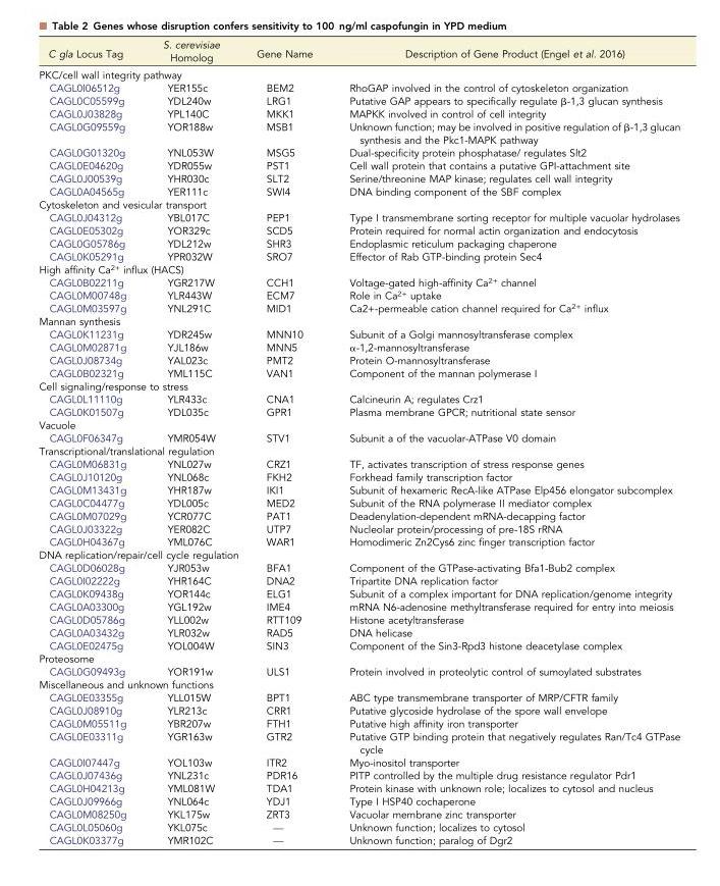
<table><thead><tr><td>C gla Locus Tag</td><td>S. cerevisiae Homolog</td><td>Gene Name</td><td>Description of Gene Product (Engel et al. 2016)</td></tr></thead><tbody><tr><td colspan="4">PKC/cell wall integrity pathway</td></tr><tr><td>CAGL0I06512g</td><td>YER155c</td><td>BEM2</td><td>RhoGAP involved in the control of cytoskeleton organization</td></tr><tr><td>CAGL0C05599g</td><td>YDL240w</td><td>LRG1</td><td>Putative GAP appears to specifically regulate β-1,3 glucan synthesis</td></tr><tr><td>CAGL0J03828g</td><td>YPL140C</td><td>MKK1</td><td>MAPKK involved in control of cell integrity</td></tr><tr><td>CAGL0G09559g</td><td>YOR188w</td><td>MSB1</td><td>Unknown function; may be involved in positive regulation of β-1,3 glucan synthesis and the Pkc1-MAPK pathway</td></tr><tr><td>CAGL0G01320g</td><td>YNL053W</td><td>MSG5</td><td>Dual-specificity protein phosphatase/ regulates Slt2</td></tr><tr><td>CAGL0E04620g</td><td>YDR055w</td><td>PST1</td><td>Cell wall protein that contains a putative GPI-attachment site</td></tr><tr><td>CAGL0J00539g</td><td>YHR030c</td><td>SLT2</td><td>Serine/threonine MAP kinase; regulates cell wall integrity</td></tr><tr><td>CAGL0A04565g</td><td>YER111c</td><td>SWI4</td><td>DNA binding component of the SBF complex</td></tr><tr><td colspan="4">Cytoskeleton and vesicular transport</td></tr><tr><td>CAGL0J04312g</td><td>YBL017C</td><td>PEP1</td><td>Type I transmembrane sorting receptor for multiple vacuolar hydrolases</td></tr><tr><td>CAGL0E05302g</td><td>YOR329c</td><td>SCD5</td><td>Protein required for normal actin organization and endocytosis</td></tr><tr><td>CAGL0G05786g</td><td>YDL212w</td><td>SHR3</td><td>Endoplasmic reticulum packaging chaperone</td></tr><tr><td>CAGL0K05291g</td><td>YPR032W</td><td>SRO7</td><td>Effector of Rab GTP-binding protein Sec4</td></tr><tr><td colspan="4">High affinity Ca<sup>2+</sup> influx (HACS)</td></tr><tr><td>CAGL0B02211g</td><td>YGR217W</td><td>CCH1</td><td>Voltage-gated high-affinity Ca<sup>2+</sup> channel</td></tr><tr><td>CAGL0M00748g</td><td>YLR443W</td><td>ECM7</td><td>Role in Ca<sup>2+</sup> uptake</td></tr><tr><td>CAGL0M03597g</td><td>YNL291C</td><td>MID1</td><td>Ca2+-permeable cation channel required for Ca<sup>2+</sup> influx</td></tr><tr><td colspan="4">Mannan synthesis</td></tr><tr><td>CAGL0K11231g</td><td>YDR245w</td><td>MNN10</td><td>Subunit of a Golgi mannosyltransferase complex</td></tr><tr><td>CAGL0M02871g</td><td>YJL186w</td><td>MNN5</td><td>α-1,2-mannosyltransferase</td></tr><tr><td>CAGL0J08734g</td><td>YAL023c</td><td>PMT2</td><td>Protein O-mannosyltransferase</td></tr><tr><td>CAGL0B02321g</td><td>YML115C</td><td>VAN1</td><td>Component of the mannan polymerase I</td></tr><tr><td colspan="4">Cell signaling/response to stress</td></tr><tr><td>CAGL0L11110g</td><td>YLR433c</td><td>CNA1</td><td>Calcineurin A; regulates Crz1</td></tr><tr><td>CAGL0K01507g</td><td>YDL035c</td><td>GPR1</td><td>Plasma membrane GPCR; nutritional state sensor</td></tr><tr><td colspan="4">Vacuole</td></tr><tr><td>CAGL0F06347g</td><td>YMR054W</td><td>STV1</td><td>Subunit a of the vacuolar-ATPase V0 domain</td></tr><tr><td colspan="4">Transcriptional/translational regulation</td></tr><tr><td>CAGL0M06831g</td><td>YNL027w</td><td>CRZ1</td><td>TF, activates transcription of stress response genes</td></tr><tr><td>CAGL0J10120g</td><td>YNL068c</td><td>FKH2</td><td>Forkhead family transcription factor</td></tr><tr><td>CAGL0M13431g</td><td>YHR187w</td><td>IKI1</td><td>Subunit of hexameric RecA-like ATPase Elp456 elongator subcomplex</td></tr><tr><td>CAGL0C04477g</td><td>YDL005c</td><td>MED2</td><td>Subunit of the RNA polymerase II mediator complex</td></tr><tr><td>CAGL0M07029g</td><td>YCR077C</td><td>PAT1</td><td>Deadenylation-dependent mRNA-decapping factor</td></tr><tr><td>CAGL0J03322g</td><td>YER082C</td><td>UTP7</td><td>Nucleolar protein/processing of pre-18S rRNA</td></tr><tr><td>CAGL0H04367g</td><td>YML076C</td><td>WAR1</td><td>Homodimeric Zn2Cys6 zinc finger transcription factor</td></tr><tr><td colspan="4">DNA replication/repair/cell cycle regulation</td></tr><tr><td>CAGL0D06028g</td><td>YJR053w</td><td>BFA1</td><td>Component of the GTPase-activating Bfa1-Bub2 complex</td></tr><tr><td>CAGL0I02222g</td><td>YHR164C</td><td>DNA2</td><td>Tripartite DNA replication factor</td></tr><tr><td>CAGL0K09438g</td><td>YOR144c</td><td>ELG1</td><td>Subunit of a complex important for DNA replication/genome integrity</td></tr><tr><td>CAGL0A03300g</td><td>YGL192w</td><td>IME4</td><td>mRNA N6-adenosine methyltransferase required for entry into meiosis</td></tr><tr><td>CAGL0D05786g</td><td>YLL002w</td><td>RTT109</td><td>Histone acetyltransferase</td></tr><tr><td>CAGL0A03432g</td><td>YLR032w</td><td>RAD5</td><td>DNA helicase</td></tr><tr><td>CAGL0E02475g</td><td>YOL004W</td><td>SIN3</td><td>Component of the Sin3-Rpd3 histone deacetylase complex</td></tr><tr><td colspan="4">Proteosome</td></tr><tr><td>CAGL0G09493g</td><td>YOR191w</td><td>ULS1</td><td>Protein involved in proteolytic control of sumoylated substrates</td></tr><tr><td colspan="4">Miscellaneous and unknown functions</td></tr><tr><td>CAGL0E03355g</td><td>YLL015W</td><td>BPT1</td><td>ABC type transmembrane transporter of MRP/CFTR family</td></tr><tr><td>CAGL0J08910g</td><td>YLR213c</td><td>CRR1</td><td>Putative glycoside hydrolase of the spore wall envelope</td></tr><tr><td>CAGL0M05511g</td><td>YBR207w</td><td>FTH1</td><td>Putative high affinity iron transporter</td></tr><tr><td>CAGL0E03311g</td><td>YGR163w</td><td>GTR2</td><td>Putative GTP binding protein that negatively regulates Ran/Tc4 GTPase cycle</td></tr><tr><td>CAGL0I07447g</td><td>YOL103w</td><td>ITR2</td><td>Myo-inositol transporter</td></tr><tr><td>CAGL0J07436g</td><td>YNL231c</td><td>PDR16</td><td>PITP controlled by the multiple drug resistance regulator Pdr1</td></tr><tr><td>CAGL0H04213g</td><td>YML081W</td><td>TDA1</td><td>Protein kinase with unknown role; localizes to cytosol and nucleus</td></tr><tr><td>CAGL0J09966g</td><td>YNL064c</td><td>YDJ1</td><td>Type I HSP40 cochaperone</td></tr><tr><td>CAGL0M08250g</td><td>YKL175w</td><td>ZRT3</td><td>Vacuolar membrane zinc transporter</td></tr><tr><td>CAGL0L05060g</td><td>YKL075c</td><td>—</td><td>Unknown function; localizes to cytosol</td></tr><tr><td>CAGL0K03377g</td><td>YMR102C</td><td>—</td><td>Unknown function; paralog of Dgr2</td></tr></tbody></table>